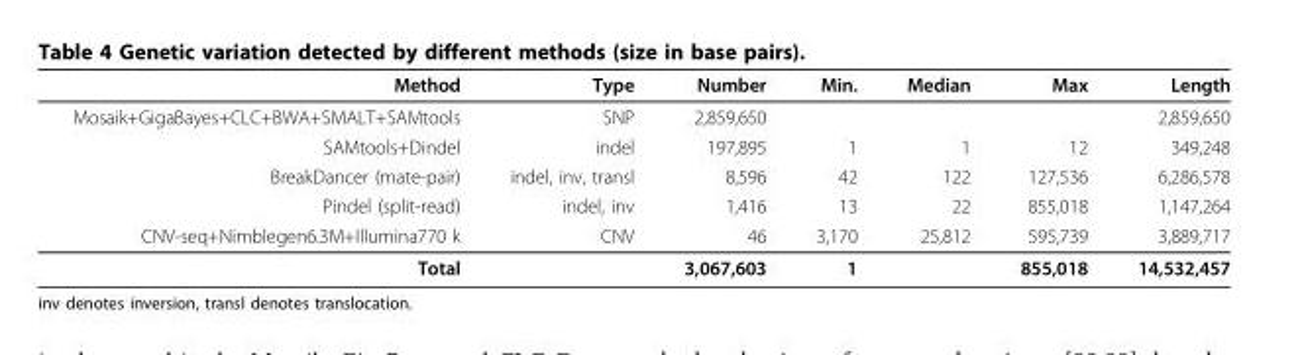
<table><thead><tr><td>Method</td><td>Type</td><td>Number</td><td>Min.</td><td>Median</td><td>Max</td><td>Length</td></tr></thead><tbody><tr><td>Mosaik+GigaBayes+CLC+BWA+SMALT+SAMtools</td><td>SNP</td><td>2,859,650</td><td></td><td></td><td></td><td>2,859,650</td></tr><tr><td>SAMtools+Dindel</td><td>indel</td><td>197,895</td><td>1</td><td>1</td><td>12</td><td>349,248</td></tr><tr><td>BreakDancer (mate-pair)</td><td>indel, inv, transl</td><td>8,596</td><td>42</td><td>122</td><td>127,536</td><td>6,286,578</td></tr><tr><td>Pindel (split-read)</td><td>indel, inv</td><td>1,416</td><td>13</td><td>22</td><td>855,018</td><td>1,147,264</td></tr><tr><td>CNV-seq+Nimblegen6.3M+Illumina770 k</td><td>CNV</td><td>46</td><td>3,170</td><td>25,812</td><td>595,739</td><td>3,889,717</td></tr><tr><td>Total</td><td></td><td>3,067,603</td><td>1</td><td></td><td>855,018</td><td>14,532,457</td></tr></tbody></table>